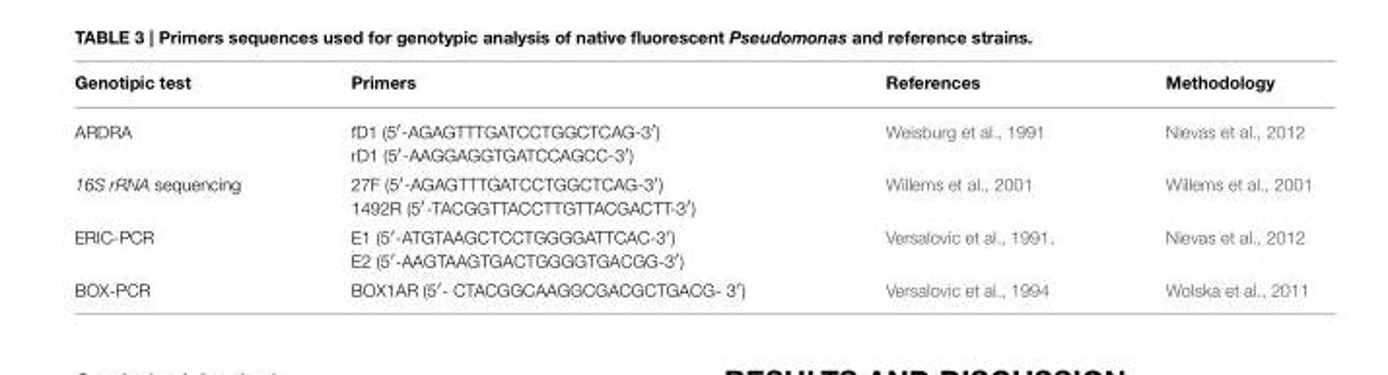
<table><thead><tr><td>Genotipic test</td><td>Primers</td><td>References</td><td>Methodology</td></tr></thead><tbody><tr><td>ARDRA</td><td>fD1 (5′-AGAGTTTGATCCTGGCTCAG-3′) rD1 (5′-AAGGAGGTGATCCAGCC-3′)</td><td>Weisburg et al., 1991</td><td>Nievas et al., 2012</td></tr><tr><td>16S rRNA sequencing</td><td>27F (5′-AGAGTTTGATCCTGGCTCAG-3′) 1492R (5′-TACGGTTACCTTGTTACGACTT-3′)</td><td>Willems et al., 2001</td><td>Willems et al., 2001</td></tr><tr><td>ERIC-PCR</td><td>E1 (5′-ATGTAAGCTCCTGGGGATTCAC-3′) E2 (5′-AAGTAAGTGACTGGGGTGACGG-3′)</td><td>Versalovic et al., 1991.</td><td>Nievas et al., 2012</td></tr><tr><td>BOX-PCR</td><td>BOX1AR (5′- CTACGGCAAGGCGACGCTGACG- 3′)</td><td>Versalovic et al., 1994</td><td>Wolska et al., 2011</td></tr></tbody></table>